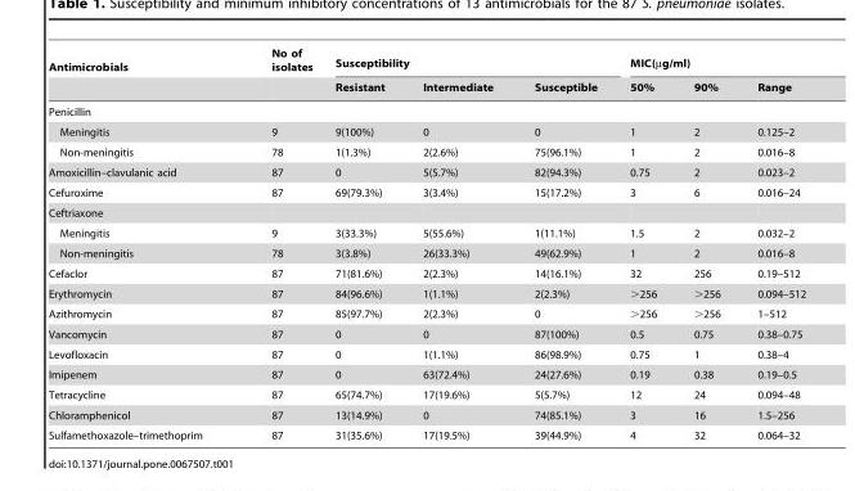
<table><thead><tr><td rowspan="2">Antimicrobials</td><td rowspan="2">No of isolates</td><td colspan="3">Susceptibility</td><td colspan="3">MIC(µg/ml)</td></tr><tr><td>Resistant</td><td>Intermediate</td><td>Susceptible</td><td>50%</td><td>90%</td><td>Range</td></tr></thead><tbody><tr><td colspan="8">Penicillin</td></tr><tr><td>Meningitis</td><td>9</td><td>9(100%)</td><td>0</td><td>0</td><td>1</td><td>2</td><td>0.125–2</td></tr><tr><td>Non-meningitis</td><td>78</td><td>1(1.3%)</td><td>2(2.6%)</td><td>75(96.1%)</td><td>1</td><td>2</td><td>0.016–8</td></tr><tr><td>Amoxicillin–clavulanic acid</td><td>87</td><td>0</td><td>5(5.7%)</td><td>82(94.3%)</td><td>0.75</td><td>2</td><td>0.023–2</td></tr><tr><td>Cefuroxime</td><td>87</td><td>69(79.3%)</td><td>3(3.4%)</td><td>15(17.2%)</td><td>3</td><td>6</td><td>0.016–24</td></tr><tr><td colspan="8">Ceftriaxone</td></tr><tr><td>Meningitis</td><td>9</td><td>3(33.3%)</td><td>5(55.6%)</td><td>1(11.1%)</td><td>1.5</td><td>2</td><td>0.032–2</td></tr><tr><td>Non-meningitis</td><td>78</td><td>3(3.8%)</td><td>26(33.3%)</td><td>49(62.9%)</td><td>1</td><td>2</td><td>0.016–8</td></tr><tr><td>Cefaclor</td><td>87</td><td>71(81.6%)</td><td>2(2.3%)</td><td>14(16.1%)</td><td>32</td><td>256</td><td>0.19–512</td></tr><tr><td>Erythromycin</td><td>87</td><td>84(96.6%)</td><td>1(1.1%)</td><td>2(2.3%)</td><td>&gt;256</td><td>&gt;256</td><td>0.094–512</td></tr><tr><td>Azithromycin</td><td>87</td><td>85(97.7%)</td><td>2(2.3%)</td><td>0</td><td>&gt;256</td><td>&gt;256</td><td>1–512</td></tr><tr><td>Vancomycin</td><td>87</td><td>0</td><td>0</td><td>87(100%)</td><td>0.5</td><td>0.75</td><td>0.38–0.75</td></tr><tr><td>Levofloxacin</td><td>87</td><td>0</td><td>1(1.1%)</td><td>86(98.9%)</td><td>0.75</td><td>1</td><td>0.38–4</td></tr><tr><td>Imipenem</td><td>87</td><td>0</td><td>63(72.4%)</td><td>24(27.6%)</td><td>0.19</td><td>0.38</td><td>0.19–0.5</td></tr><tr><td>Tetracycline</td><td>87</td><td>65(74.7%)</td><td>17(19.6%)</td><td>5(5.7%)</td><td>12</td><td>24</td><td>0.094–48</td></tr><tr><td>Chloramphenicol</td><td>87</td><td>13(14.9%)</td><td>0</td><td>74(85.1%)</td><td>3</td><td>16</td><td>1.5–256</td></tr><tr><td>Sulfamethoxazole–trimethoprim</td><td>87</td><td>31(35.6%)</td><td>17(19.5%)</td><td>39(44.9%)</td><td>4</td><td>32</td><td>0.064–32</td></tr></tbody></table>